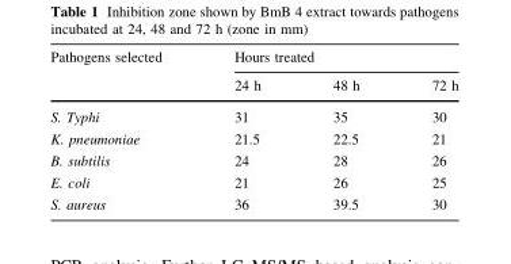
<table><thead><tr><td rowspan="2">Pathogens selected</td><td colspan="3">Hours treated</td></tr><tr><td>24 h</td><td>48 h</td><td>72 h</td></tr></thead><tbody><tr><td>S. Typhi</td><td>31</td><td>35</td><td>30</td></tr><tr><td>K. pneumoniae</td><td>21.5</td><td>22.5</td><td>21</td></tr><tr><td>B. subtilis</td><td>24</td><td>28</td><td>26</td></tr><tr><td>E. coli</td><td>21</td><td>26</td><td>25</td></tr><tr><td>S. aureus</td><td>36</td><td>39.5</td><td>30</td></tr></tbody></table>